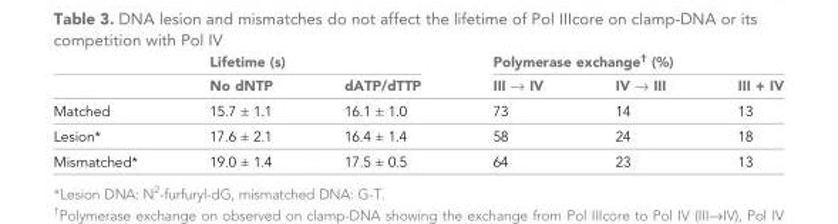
<table><thead><tr><td rowspan="2"></td><td colspan="2">Lifetime (s)</td><td colspan="3">Polymerase exchange<sup>†</sup> (%)</td></tr><tr><td>No dNTP</td><td>dATP/dTTP</td><td>III fi IV</td><td>IV fi III</td><td>III + IV</td></tr></thead><tbody><tr><td>Matched</td><td>15.7 ± 1.1</td><td>16.1 ± 1.0</td><td>73</td><td>14</td><td>13</td></tr><tr><td>Lesion*</td><td>17.6 ± 2.1</td><td>16.4 ± 1.4</td><td>58</td><td>24</td><td>18</td></tr><tr><td>Mismatched*</td><td>19.0 ± 1.4</td><td>17.5 ± 0.5</td><td>64</td><td>23</td><td>13</td></tr></tbody></table>